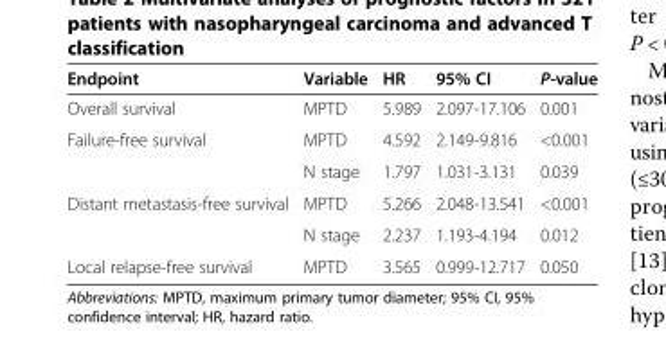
<table><thead><tr><td>Endpoint</td><td>Variable</td><td>HR</td><td>95% CI</td><td>P-value</td></tr></thead><tbody><tr><td>Overall survival</td><td>MPTD</td><td>5.989</td><td>2.097-17.106</td><td>0.001</td></tr><tr><td rowspan="2">Failure-free survival</td><td>MPTD</td><td>4.592</td><td>2.149-9.816</td><td>&lt;0.001</td></tr><tr><td>N stage</td><td>1.797</td><td>1.031-3.131</td><td>0.039</td></tr><tr><td rowspan="2">Distant metastasis-free survival</td><td>MPTD</td><td>5.266</td><td>2.048-13.541</td><td>&lt;0.001</td></tr><tr><td>N stage</td><td>2.237</td><td>1.193-4.194</td><td>0.012</td></tr><tr><td>Local relapse-free survival</td><td>MPTD</td><td>3.565</td><td>0.999-12.717</td><td>0.050</td></tr></tbody></table>